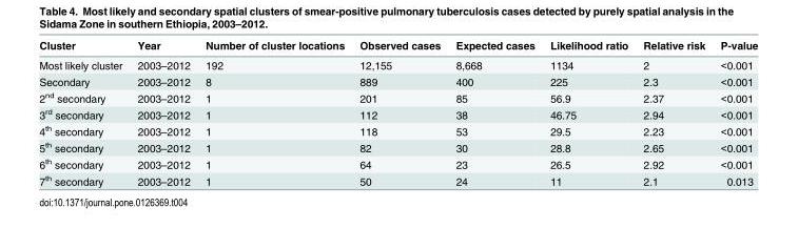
<table><thead><tr><td>Cluster</td><td>Year</td><td>Number of cluster locations</td><td>Observed cases</td><td>Expected cases</td><td>Likelihood ratio</td><td>Relative risk</td><td>P-value</td></tr></thead><tbody><tr><td>Most likely cluster</td><td>2003–2012</td><td>192</td><td>12,155</td><td>8,668</td><td>1134</td><td>2</td><td>&lt;0.001</td></tr><tr><td>Secondary</td><td>2003–2012</td><td>8</td><td>889</td><td>400</td><td>225</td><td>2.3</td><td>&lt;0.001</td></tr><tr><td>2<sup>nd</sup> secondary</td><td>2003–2012</td><td>1</td><td>201</td><td>85</td><td>56.9</td><td>2.37</td><td>&lt;0.001</td></tr><tr><td>3<sup>rd</sup> secondary</td><td>2003–2012</td><td>1</td><td>112</td><td>38</td><td>46.75</td><td>2.94</td><td>&lt;0.001</td></tr><tr><td>4<sup>th</sup> secondary</td><td>2003–2012</td><td>1</td><td>118</td><td>53</td><td>29.5</td><td>2.23</td><td>&lt;0.001</td></tr><tr><td>5<sup>th</sup> secondary</td><td>2003–2012</td><td>1</td><td>82</td><td>30</td><td>28.8</td><td>2.65</td><td>&lt;0.001</td></tr><tr><td>6<sup>th</sup> secondary</td><td>2003–2012</td><td>1</td><td>64</td><td>23</td><td>26.5</td><td>2.92</td><td>&lt;0.001</td></tr><tr><td>7<sup>th</sup> secondary</td><td>2003–2012</td><td>1</td><td>50</td><td>24</td><td>11</td><td>2.1</td><td>0.013</td></tr></tbody></table>